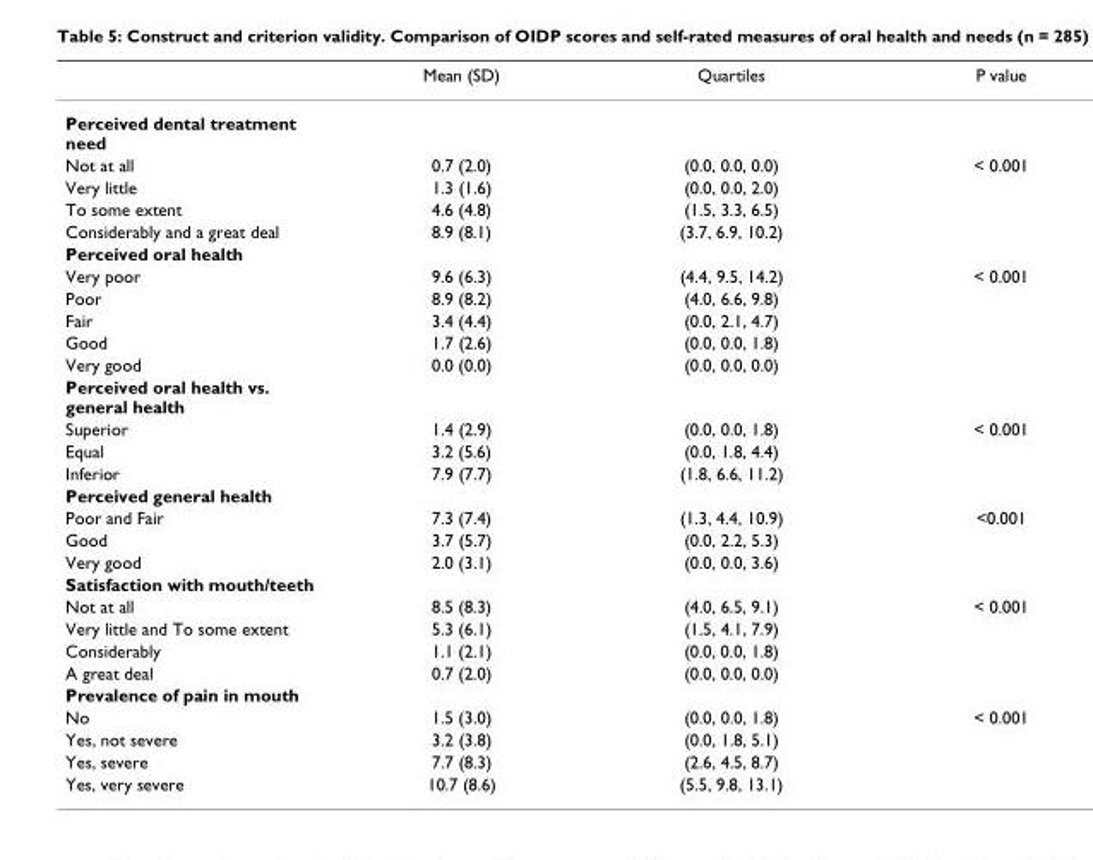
<table><thead><tr><td></td><td>Mean (SD)</td><td>Quartiles</td><td>P value</td></tr></thead><tbody><tr><td colspan="4">Perceived dental treatment need</td></tr><tr><td>Not at all</td><td>0.7 (2.0)</td><td>(0.0, 0.0, 0.0)</td><td>&lt; 0.001</td></tr><tr><td>Very little</td><td>1.3 (1.6)</td><td>(0.0, 0.0, 2.0)</td><td></td></tr><tr><td>To some extent</td><td>4.6 (4.8)</td><td>(1.5, 3.3, 6.5)</td><td></td></tr><tr><td>Considerably and a great deal</td><td>8.9 (8.1)</td><td>(3.7, 6.9, 10.2)</td><td></td></tr><tr><td colspan="4">Perceived oral health</td></tr><tr><td>Very poor</td><td>9.6 (6.3)</td><td>(4.4, 9.5, 14.2)</td><td>&lt; 0.001</td></tr><tr><td>Poor</td><td>8.9 (8.2)</td><td>(4.0, 6.6, 9.8)</td><td></td></tr><tr><td>Fair</td><td>3.4 (4.4)</td><td>(0.0, 2.1, 4.7)</td><td></td></tr><tr><td>Good</td><td>1.7 (2.6)</td><td>(0.0, 0.0, 1.8)</td><td></td></tr><tr><td>Very good</td><td>0.0 (0.0)</td><td>(0.0, 0.0, 0.0)</td><td></td></tr><tr><td colspan="4">Perceived oral health vs. general health</td></tr><tr><td>Superior</td><td>1.4 (2.9)</td><td>(0.0, 0.0, 1.8)</td><td>&lt; 0.001</td></tr><tr><td>Equal</td><td>3.2 (5.6)</td><td>(0.0, 1.8, 4.4)</td><td></td></tr><tr><td>Inferior</td><td>7.9 (7.7)</td><td>(1.8, 6.6, 11.2)</td><td></td></tr><tr><td colspan="4">Perceived general health</td></tr><tr><td>Poor and Fair</td><td>7.3 (7.4)</td><td>(1.3, 4.4, 10.9)</td><td>&lt;0.001</td></tr><tr><td>Good</td><td>3.7 (5.7)</td><td>(0.0, 2.2, 5.3)</td><td></td></tr><tr><td>Very good</td><td>2.0 (3.1)</td><td>(0.0, 0.0, 3.6)</td><td></td></tr><tr><td colspan="4">Satisfaction with mouth/teeth</td></tr><tr><td>Not at all</td><td>8.5 (8.3)</td><td>(4.0, 6.5, 9.1)</td><td>&lt; 0.001</td></tr><tr><td>Very little and To some extent</td><td>5.3 (6.1)</td><td>(1.5, 4.1, 7.9)</td><td></td></tr><tr><td>Considerably</td><td>1.1 (2.1)</td><td>(0.0, 0.0, 1.8)</td><td></td></tr><tr><td>A great deal</td><td>0.7 (2.0)</td><td>(0.0, 0.0, 0.0)</td><td></td></tr><tr><td colspan="4">Prevalence of pain in mouth</td></tr><tr><td>No</td><td>1.5 (3.0)</td><td>(0.0, 0.0, 1.8)</td><td>&lt; 0.001</td></tr><tr><td>Yes, not severe</td><td>3.2 (3.8)</td><td>(0.0, 1.8, 5.1)</td><td></td></tr><tr><td>Yes, severe</td><td>7.7 (8.3)</td><td>(2.6, 4.5, 8.7)</td><td></td></tr><tr><td>Yes, very severe</td><td>10.7 (8.6)</td><td>(5.5, 9.8, 13.1)</td><td></td></tr></tbody></table>